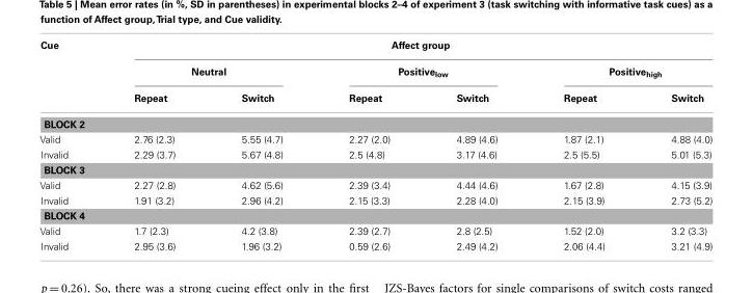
<table><thead><tr><td rowspan="3">Cue</td><td colspan="6">Affect group</td></tr><tr><td colspan="2">Neutral</td><td colspan="2">Positive<sub>low</sub></td><td colspan="2">Positive<sub>high</sub></td></tr><tr><td>Repeat</td><td>Switch</td><td>Repeat</td><td>Switch</td><td>Repeat</td><td>Switch</td></tr></thead><tbody><tr><td colspan="7">BLOCK 2</td></tr><tr><td>Valid</td><td>2.76 (2.3)</td><td>5.55 (4.7)</td><td>2.27 (2.0)</td><td>4.89 (4.6)</td><td>1.87 (2.1)</td><td>4.88 (4.0)</td></tr><tr><td>Invalid</td><td>2.29 (3.7)</td><td>5.67 (4.8)</td><td>2.5 (4.8)</td><td>3.17 (4.6)</td><td>2.5 (5.5)</td><td>5.01 (5.3)</td></tr><tr><td colspan="7">BLOCK 3</td></tr><tr><td>Valid</td><td>2.27 (2.8)</td><td>4.62 (5.6)</td><td>2.39 (3.4)</td><td>4.44 (4.6)</td><td>1.67 (2.8)</td><td>4.15 (3.9)</td></tr><tr><td>Invalid</td><td>1.91 (3.2)</td><td>2.96 (4.2)</td><td>2.15 (3.3)</td><td>2.28 (4.0)</td><td>2.15 (3.9)</td><td>2.73 (5.2)</td></tr><tr><td colspan="7">BLOCK 4</td></tr><tr><td>Valid</td><td>1.7 (2.3)</td><td>4.2 (3.8)</td><td>2.39 (2.7)</td><td>2.8 (2.5)</td><td>1.52 (2.0)</td><td>3.2 (3.3)</td></tr><tr><td>Invalid</td><td>2.95 (3.6)</td><td>1.96 (3.2)</td><td>0.59 (2.6)</td><td>2.49 (4.2)</td><td>2.06 (4.4)</td><td>3.21 (4.9)</td></tr></tbody></table>